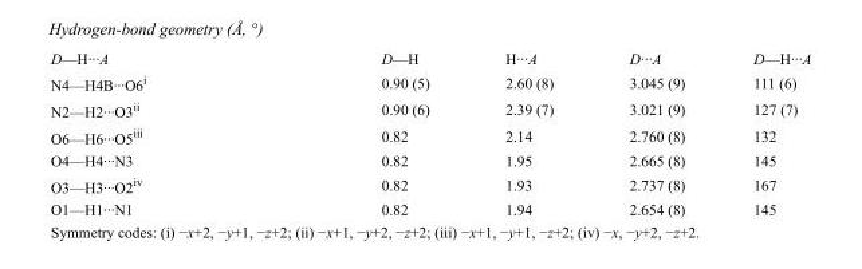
<table><tbody><tr><td>D—H···A</td><td>D—H</td><td>H···A</td><td>D···A</td><td>D—H···A</td></tr><tr><td>N4—H4B···O6<sup>i</sup></td><td>0.90 (5)</td><td>2.60 (8)</td><td>3.045 (9)</td><td>111 (6)</td></tr><tr><td>N2—H2···O3<sup>ii</sup></td><td>0.90 (6)</td><td>2.39 (7)</td><td>3.021 (9)</td><td>127 (7)</td></tr><tr><td>O6—H6···O5<sup>iii</sup></td><td>0.82</td><td>2.14</td><td>2.760 (8)</td><td>132</td></tr><tr><td>O4—H4···N3</td><td>0.82</td><td>1.95</td><td>2.665 (8)</td><td>145</td></tr><tr><td>O3—H3···O2<sup>iv</sup></td><td>0.82</td><td>1.93</td><td>2.737 (8)</td><td>167</td></tr><tr><td>O1—H1···N1</td><td>0.82</td><td>1.94</td><td>2.654 (8)</td><td>145</td></tr></tbody></table>